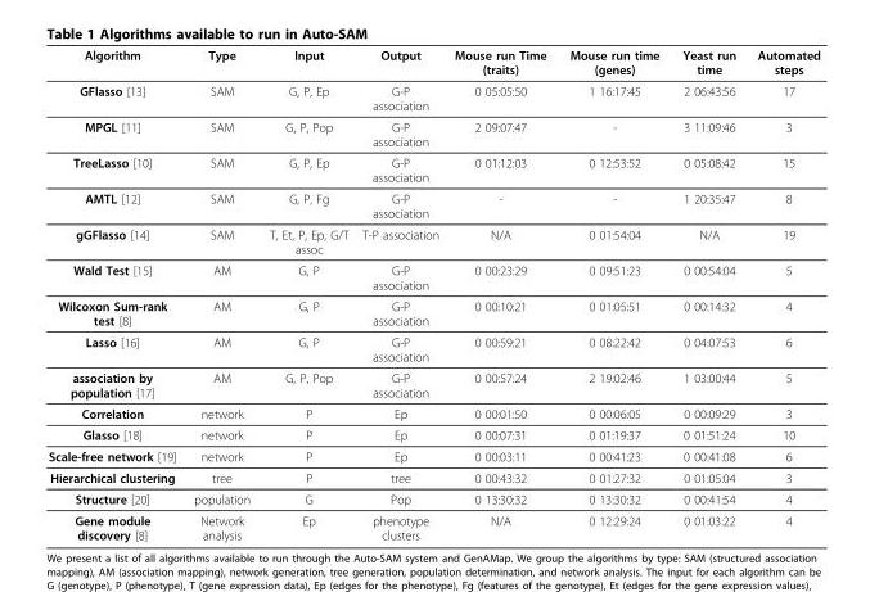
<table><thead><tr><td>Algorithm</td><td>Type</td><td>Input</td><td>Output</td><td>Mouse run Time (traits)</td><td>Mouse run time (genes)</td><td>Yeast run time</td><td>Automated steps</td></tr></thead><tbody><tr><td>GFlasso [13]</td><td>SAM</td><td>G, P, Ep</td><td>G-P association</td><td>0 05:05:50</td><td>1 16:17:45</td><td>2 06:43:56</td><td>17</td></tr><tr><td>MPGL [11]</td><td>SAM</td><td>G, P, Pop</td><td>G-P association</td><td>2 09:07:47</td><td>-</td><td>3 11:09:46</td><td>3</td></tr><tr><td>TreeLasso [10]</td><td>SAM</td><td>G, P, Ep</td><td>G-P association</td><td>0 01:12:03</td><td>0 12:53:52</td><td>0 05:08:42</td><td>15</td></tr><tr><td>AMTL [12]</td><td>SAM</td><td>G, P, Fg</td><td>G-P association</td><td>-</td><td>-</td><td>1 20:35:47</td><td>8</td></tr><tr><td>gGFlasso [14]</td><td>SAM</td><td>T, Et, P, Ep, G/T assoc</td><td>T-P association</td><td>N/A</td><td>0 01:54:04</td><td>N/A</td><td>19</td></tr><tr><td>Wald Test [15]</td><td>AM</td><td>G, P</td><td>G-P association</td><td>0 00:23:29</td><td>0 09:51:23</td><td>0 00:54:04</td><td>5</td></tr><tr><td>Wilcoxon Sum-rank test [8]</td><td>AM</td><td>G, P</td><td>G-P association</td><td>0 00:10:21</td><td>0 01:05:51</td><td>0 00:14:32</td><td>4</td></tr><tr><td>Lasso [16]</td><td>AM</td><td>G, P</td><td>G-P association</td><td>0 00:59:21</td><td>0 08:22:42</td><td>0 04:07:53</td><td>6</td></tr><tr><td>association by population [17]</td><td>AM</td><td>G, P, Pop</td><td>G-P association</td><td>0 00:57:24</td><td>2 19:02:46</td><td>1 03:00:44</td><td>5</td></tr><tr><td>Correlation</td><td>network</td><td>P</td><td>Ep</td><td>0 00:01:50</td><td>0 00:06:05</td><td>0 00:09:29</td><td>3</td></tr><tr><td>Glasso [18]</td><td>network</td><td>P</td><td>Ep</td><td>0 00:07:31</td><td>0 01:19:37</td><td>0 01:51:24</td><td>10</td></tr><tr><td>Scale-free network [19]</td><td>network</td><td>P</td><td>Ep</td><td>0 00:03:11</td><td>0 00:41:23</td><td>0 00:41:08</td><td>6</td></tr><tr><td>Hierarchical clustering</td><td>tree</td><td>P</td><td>tree</td><td>0 00:43:32</td><td>0 01:27:32</td><td>0 01:05:04</td><td>3</td></tr><tr><td>Structure [20]</td><td>population</td><td>G</td><td>Pop</td><td>0 13:30:32</td><td>0 13:30:32</td><td>0 00:41:54</td><td>4</td></tr><tr><td>Gene module discovery [8]</td><td>Network analysis</td><td>Ep</td><td>phenotype clusters</td><td>N/A</td><td>0 12:29:24</td><td>0 01:03:22</td><td>4</td></tr></tbody></table>